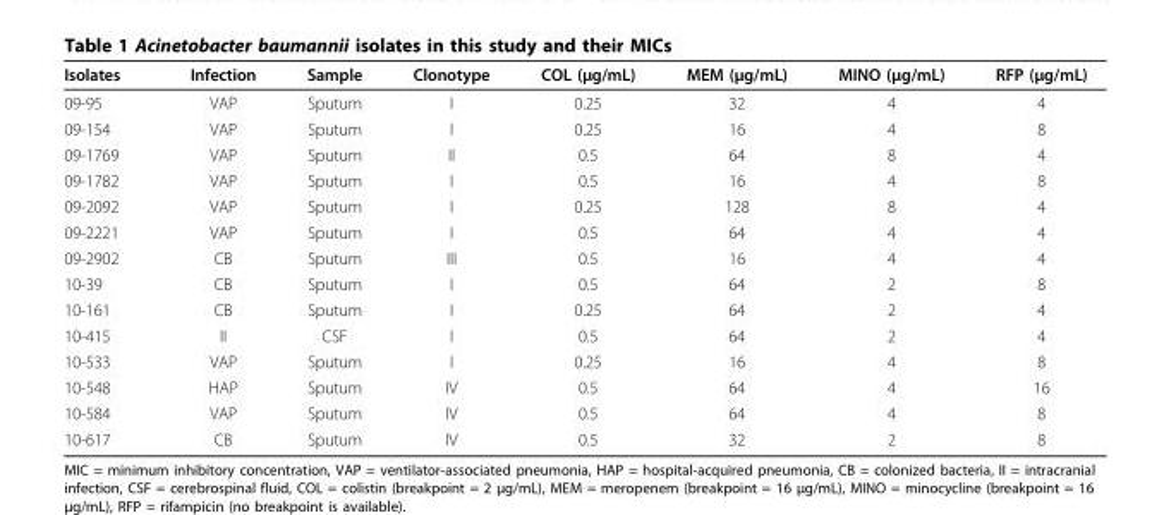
<table><thead><tr><td>Isolates</td><td>Infection</td><td>Sample</td><td>Clonotype</td><td>COL (μg/mL)</td><td>MEM (μg/mL)</td><td>MINO (μg/mL)</td><td>RFP (μg/mL)</td></tr></thead><tbody><tr><td>09-95</td><td>VAP</td><td>Sputum</td><td>I</td><td>0.25</td><td>32</td><td>4</td><td>4</td></tr><tr><td>09-154</td><td>VAP</td><td>Sputum</td><td>I</td><td>0.25</td><td>16</td><td>4</td><td>8</td></tr><tr><td>09-1769</td><td>VAP</td><td>Sputum</td><td>II</td><td>0.5</td><td>64</td><td>8</td><td>4</td></tr><tr><td>09-1782</td><td>VAP</td><td>Sputum</td><td>I</td><td>0.5</td><td>16</td><td>4</td><td>8</td></tr><tr><td>09-2092</td><td>VAP</td><td>Sputum</td><td>I</td><td>0.25</td><td>128</td><td>8</td><td>4</td></tr><tr><td>09-2221</td><td>VAP</td><td>Sputum</td><td>I</td><td>0.5</td><td>64</td><td>4</td><td>4</td></tr><tr><td>09-2902</td><td>CB</td><td>Sputum</td><td>III</td><td>0.5</td><td>16</td><td>4</td><td>4</td></tr><tr><td>10-39</td><td>CB</td><td>Sputum</td><td>I</td><td>0.5</td><td>64</td><td>2</td><td>8</td></tr><tr><td>10-161</td><td>CB</td><td>Sputum</td><td>I</td><td>0.25</td><td>64</td><td>2</td><td>4</td></tr><tr><td>10-415</td><td>II</td><td>CSF</td><td>I</td><td>0.5</td><td>64</td><td>2</td><td>4</td></tr><tr><td>10-533</td><td>VAP</td><td>Sputum</td><td>I</td><td>0.25</td><td>16</td><td>4</td><td>8</td></tr><tr><td>10-548</td><td>HAP</td><td>Sputum</td><td>IV</td><td>0.5</td><td>64</td><td>4</td><td>16</td></tr><tr><td>10-584</td><td>VAP</td><td>Sputum</td><td>IV</td><td>0.5</td><td>64</td><td>4</td><td>8</td></tr><tr><td>10-617</td><td>CB</td><td>Sputum</td><td>IV</td><td>0.5</td><td>32</td><td>2</td><td>8</td></tr></tbody></table>